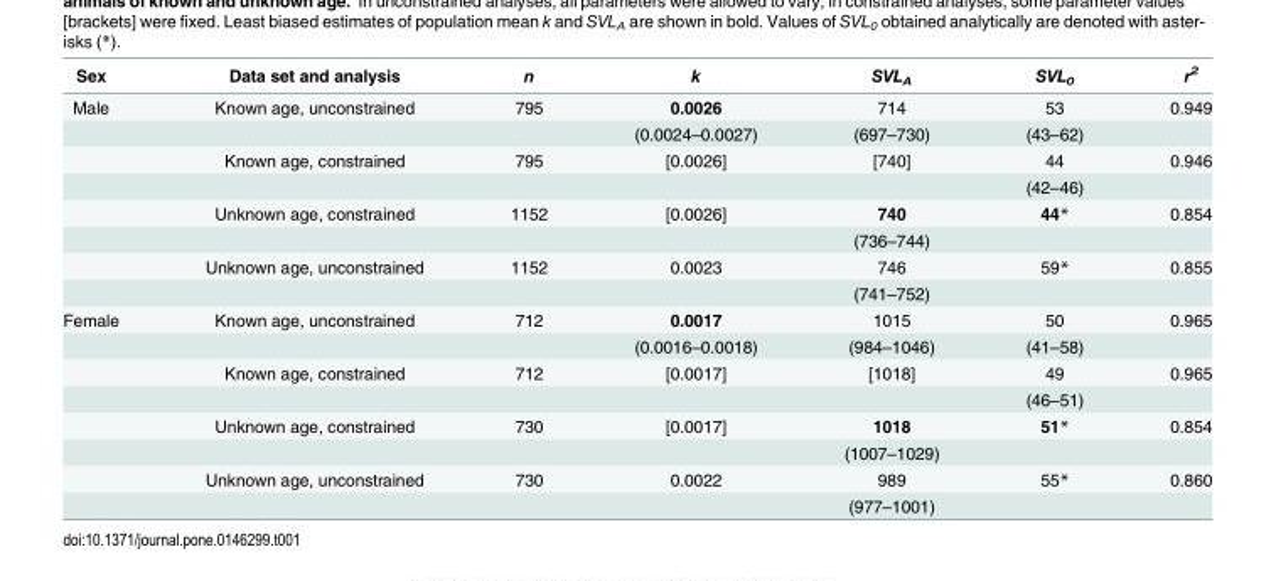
<table><thead><tr><td>Sex</td><td>Data set and analysis</td><td>n</td><td>k</td><td>SVL<sub>A</sub></td><td>SVL<sub>0</sub></td><td>r<sup>2</sup></td></tr></thead><tbody><tr><td rowspan="8">Male</td><td>Known age, unconstrained</td><td>795</td><td>0.0026</td><td>714</td><td>53</td><td>0.949</td></tr><tr><td></td><td></td><td>(0.0024–0.0027)</td><td>(697–730)</td><td>(43–62)</td><td></td></tr><tr><td>Known age, constrained</td><td>795</td><td>[0.0026]</td><td>[740]</td><td>44</td><td>0.946</td></tr><tr><td></td><td></td><td></td><td></td><td>(42–46)</td><td></td></tr><tr><td>Unknown age, constrained</td><td>1152</td><td>[0.0026]</td><td>740</td><td>44*</td><td>0.854</td></tr><tr><td></td><td></td><td></td><td>(736–744)</td><td></td><td></td></tr><tr><td>Unknown age, unconstrained</td><td>1152</td><td>0.0023</td><td>746</td><td>59*</td><td>0.855</td></tr><tr><td></td><td></td><td></td><td>(741–752)</td><td></td><td></td></tr><tr><td rowspan="8">Female</td><td>Known age, unconstrained</td><td>712</td><td>0.0017</td><td>1015</td><td>50</td><td>0.965</td></tr><tr><td></td><td></td><td>(0.0016–0.0018)</td><td>(984–1046)</td><td>(41–58)</td><td></td></tr><tr><td>Known age, constrained</td><td>712</td><td>[0.0017]</td><td>[1018]</td><td>49</td><td>0.965</td></tr><tr><td></td><td></td><td></td><td></td><td>(46–51)</td><td></td></tr><tr><td>Unknown age, constrained</td><td>730</td><td>[0.0017]</td><td>1018</td><td>51*</td><td>0.854</td></tr><tr><td></td><td></td><td></td><td>(1007–1029)</td><td></td><td></td></tr><tr><td>Unknown age, unconstrained</td><td>730</td><td>0.0022</td><td>989</td><td>55*</td><td>0.860</td></tr><tr><td></td><td></td><td></td><td>(977–1001)</td><td></td><td></td></tr></tbody></table>